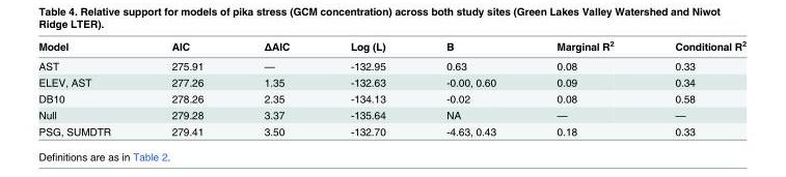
<table><thead><tr><td>Model</td><td>AIC</td><td>ΔAIC</td><td>Log (L)</td><td>B</td><td>Marginal R<sup>2</sup></td><td>Conditional R<sup>2</sup></td></tr></thead><tbody><tr><td>AST</td><td>275.91</td><td>—</td><td>-132.95</td><td>0.63</td><td>0.08</td><td>0.33</td></tr><tr><td>ELEV, AST</td><td>277.26</td><td>1.35</td><td>-132.63</td><td>-0.00, 0.60</td><td>0.09</td><td>0.34</td></tr><tr><td>DB10</td><td>278.26</td><td>2.35</td><td>-134.13</td><td>-0.02</td><td>0.08</td><td>0.58</td></tr><tr><td>Null</td><td>279.28</td><td>3.37</td><td>-135.64</td><td>NA</td><td>—</td><td>—</td></tr><tr><td>PSG, SUMDTR</td><td>279.41</td><td>3.50</td><td>-132.70</td><td>-4.63, 0.43</td><td>0.18</td><td>0.33</td></tr></tbody></table>